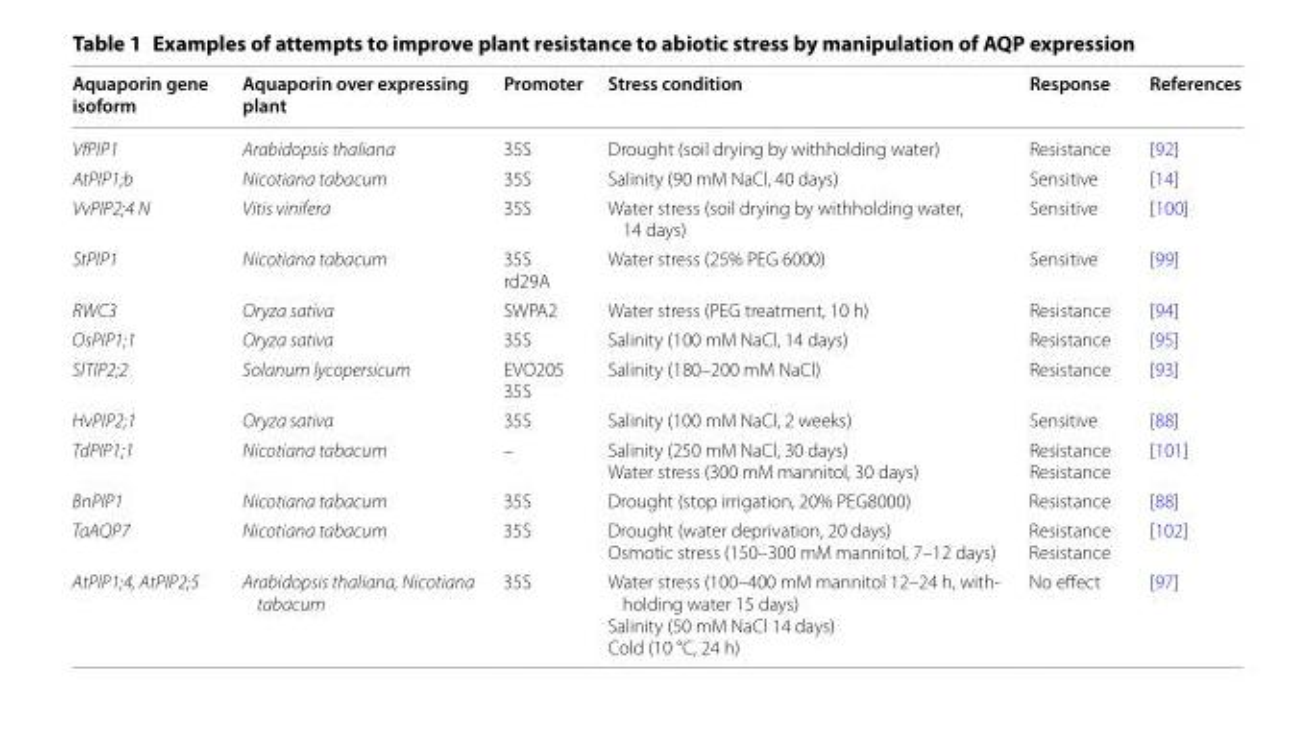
<table><thead><tr><td>Aquaporin gene isoform</td><td>Aquaporin over expressing plant</td><td>Promoter</td><td>Stress condition</td><td>Response</td><td>References</td></tr></thead><tbody><tr><td>VfPIP1</td><td>Arabidopsis thaliana</td><td>35S</td><td>Drought (soil drying by withholding water)</td><td>Resistance</td><td>[92]</td></tr><tr><td>AtPIP1;b</td><td>Nicotiana tabacum</td><td>35S</td><td>Salinity (90 mM NaCl, 40 days)</td><td>Sensitive</td><td>[14]</td></tr><tr><td>VvPIP2;4 N</td><td>Vitis vinifera</td><td>35S</td><td>Water stress (soil drying by withholding water, 14 days)</td><td>Sensitive</td><td>[100]</td></tr><tr><td>StPIP1</td><td>Nicotiana tabacum</td><td>35S rd29A</td><td>Water stress (25% PEG 6000)</td><td>Sensitive</td><td>[99]</td></tr><tr><td>RWC3</td><td>Oryza sativa</td><td>SWPA2</td><td>Water stress (PEG treatment, 10 h)</td><td>Resistance</td><td>[94]</td></tr><tr><td>OsPIP1;1</td><td>Oryza sativa</td><td>35S</td><td>Salinity (100 mM NaCl, 14 days)</td><td>Resistance</td><td>[95]</td></tr><tr><td>SlTIP2;2</td><td>Solanum lycopersicum</td><td>EVO205 35S</td><td>Salinity (180–200 mM NaCl)</td><td>Resistance</td><td>[93]</td></tr><tr><td>HvPIP2;1</td><td>Oryza sativa</td><td>35S</td><td>Salinity (100 mM NaCl, 2 weeks)</td><td>Sensitive</td><td>[88]</td></tr><tr><td>TdPIP1;1</td><td>Nicotiana tabacum</td><td>–</td><td>Salinity (250 mM NaCl, 30 days) Water stress (300 mM mannitol, 30 days)</td><td>Resistance Resistance</td><td>[101]</td></tr><tr><td>BnPIP1</td><td>Nicotiana tabacum</td><td>35S</td><td>Drought (stop irrigation, 20% PEG8000)</td><td>Resistance</td><td>[88]</td></tr><tr><td>TaAQP7</td><td>Nicotiana tabacum</td><td>35S</td><td>Drought (water deprivation, 20 days) Osmotic stress (150–300 mM mannitol, 7–12 days)</td><td>Resistance Resistance</td><td>[102]</td></tr><tr><td>AtPIP1;4, AtPIP2;5</td><td>Arabidopsis thaliana, Nicotiana tabacum</td><td>35S</td><td>Water stress (100–400 mM mannitol 12–24 h, with- holding water 15 days) Salinity (50 mM NaCl 14 days) Cold (10 °C, 24 h)</td><td>No effect</td><td>[97]</td></tr></tbody></table>